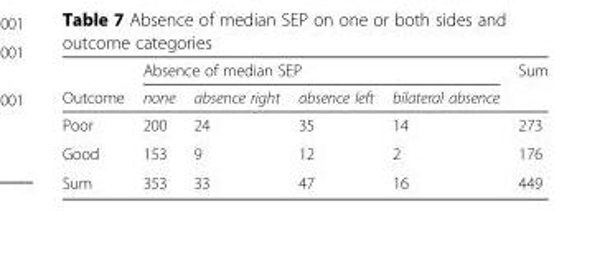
<table><thead><tr><td rowspan="2">Outcome</td><td colspan="4">Absence of median SEP</td><td rowspan="2">Sum</td></tr><tr><td>none</td><td>absence right</td><td>absence left</td><td>bilateral absence</td></tr></thead><tbody><tr><td>Poor</td><td>200</td><td>24</td><td>35</td><td>14</td><td>273</td></tr><tr><td>Good</td><td>153</td><td>9</td><td>12</td><td>2</td><td>176</td></tr><tr><td>Sum</td><td>353</td><td>33</td><td>47</td><td>16</td><td>449</td></tr></tbody></table>